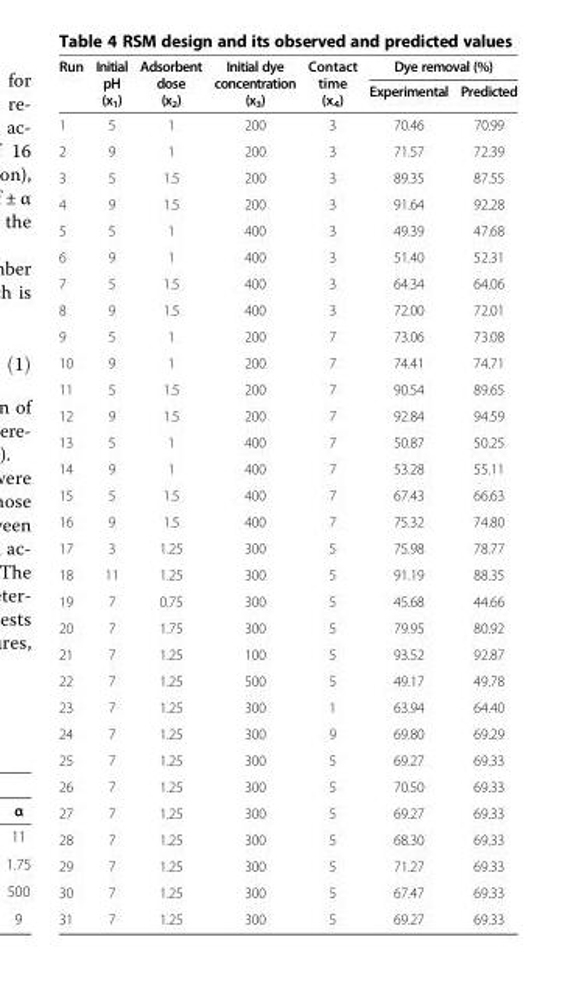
<table><thead><tr><td rowspan="2">Run</td><td rowspan="2">Initial pH (x<sub>1</sub>)</td><td rowspan="2">Adsorbent dose (x<sub>2</sub>)</td><td rowspan="2">Initial dye concentration (x<sub>3</sub>)</td><td rowspan="2">Contact time (x<sub>4</sub>)</td><td colspan="2">Dye removal (%)</td></tr><tr><td>Experimental</td><td>Predicted</td></tr></thead><tbody><tr><td>1</td><td>5</td><td>1</td><td>200</td><td>3</td><td>70.46</td><td>70.99</td></tr><tr><td>2</td><td>9</td><td>1</td><td>200</td><td>3</td><td>71.57</td><td>72.39</td></tr><tr><td>3</td><td>5</td><td>1.5</td><td>200</td><td>3</td><td>89.35</td><td>87.55</td></tr><tr><td>4</td><td>9</td><td>1.5</td><td>200</td><td>3</td><td>91.64</td><td>92.28</td></tr><tr><td>5</td><td>5</td><td>1</td><td>400</td><td>3</td><td>49.39</td><td>47.68</td></tr><tr><td>6</td><td>9</td><td>1</td><td>400</td><td>3</td><td>51.40</td><td>52.31</td></tr><tr><td>7</td><td>5</td><td>1.5</td><td>400</td><td>3</td><td>64.34</td><td>64.06</td></tr><tr><td>8</td><td>9</td><td>1.5</td><td>400</td><td>3</td><td>72.00</td><td>72.01</td></tr><tr><td>9</td><td>5</td><td>1</td><td>200</td><td>7</td><td>73.06</td><td>73.08</td></tr><tr><td>10</td><td>9</td><td>1</td><td>200</td><td>7</td><td>74.41</td><td>74.71</td></tr><tr><td>11</td><td>5</td><td>1.5</td><td>200</td><td>7</td><td>90.54</td><td>89.65</td></tr><tr><td>12</td><td>9</td><td>1.5</td><td>200</td><td>7</td><td>92.84</td><td>94.59</td></tr><tr><td>13</td><td>5</td><td>1</td><td>400</td><td>7</td><td>50.87</td><td>50.25</td></tr><tr><td>14</td><td>9</td><td>1</td><td>400</td><td>7</td><td>53.28</td><td>55.11</td></tr><tr><td>15</td><td>5</td><td>1.5</td><td>400</td><td>7</td><td>67.43</td><td>66.63</td></tr><tr><td>16</td><td>9</td><td>1.5</td><td>400</td><td>7</td><td>75.32</td><td>74.80</td></tr><tr><td>17</td><td>3</td><td>1.25</td><td>300</td><td>5</td><td>75.98</td><td>78.77</td></tr><tr><td>18</td><td>11</td><td>1.25</td><td>300</td><td>5</td><td>91.19</td><td>88.35</td></tr><tr><td>19</td><td>7</td><td>0.75</td><td>300</td><td>5</td><td>45.68</td><td>44.66</td></tr><tr><td>20</td><td>7</td><td>1.75</td><td>300</td><td>5</td><td>79.95</td><td>80.92</td></tr><tr><td>21</td><td>7</td><td>1.25</td><td>100</td><td>5</td><td>93.52</td><td>92.87</td></tr><tr><td>22</td><td>7</td><td>1.25</td><td>500</td><td>5</td><td>49.17</td><td>49.78</td></tr><tr><td>23</td><td>7</td><td>1.25</td><td>300</td><td>1</td><td>63.94</td><td>64.40</td></tr><tr><td>24</td><td>7</td><td>1.25</td><td>300</td><td>9</td><td>69.80</td><td>69.29</td></tr><tr><td>25</td><td>7</td><td>1.25</td><td>300</td><td>5</td><td>69.27</td><td>69.33</td></tr><tr><td>26</td><td>7</td><td>1.25</td><td>300</td><td>5</td><td>70.50</td><td>69.33</td></tr><tr><td>27</td><td>7</td><td>1.25</td><td>300</td><td>5</td><td>69.27</td><td>69.33</td></tr><tr><td>28</td><td>7</td><td>1.25</td><td>300</td><td>5</td><td>68.30</td><td>69.33</td></tr><tr><td>29</td><td>7</td><td>1.25</td><td>300</td><td>5</td><td>71.27</td><td>69.33</td></tr><tr><td>30</td><td>7</td><td>1.25</td><td>300</td><td>5</td><td>67.47</td><td>69.33</td></tr><tr><td>31</td><td>7</td><td>1.25</td><td>300</td><td>5</td><td>69.27</td><td>69.33</td></tr></tbody></table>